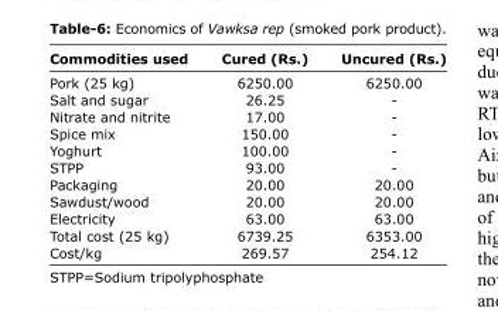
<table><thead><tr><td>Commodities used</td><td>Cured (Rs.)</td><td>Uncured (Rs.)</td></tr></thead><tbody><tr><td>Pork (25 kg)</td><td>6250.00</td><td>6250.00</td></tr><tr><td>Salt and sugar</td><td>26.25</td><td>-</td></tr><tr><td>Nitrate and nitrite</td><td>17.00</td><td>-</td></tr><tr><td>Spice mix</td><td>150.00</td><td>-</td></tr><tr><td>Yoghurt</td><td>100.00</td><td>-</td></tr><tr><td>STPP</td><td>93.00</td><td>-</td></tr><tr><td>Packaging</td><td>20.00</td><td>20.00</td></tr><tr><td>Sawdust/wood</td><td>20.00</td><td>20.00</td></tr><tr><td>Electricity</td><td>63.00</td><td>63.00</td></tr><tr><td>Total cost (25 kg)</td><td>6739.25</td><td>6353.00</td></tr><tr><td>Cost/kg</td><td>269.57</td><td>254.12</td></tr></tbody></table>